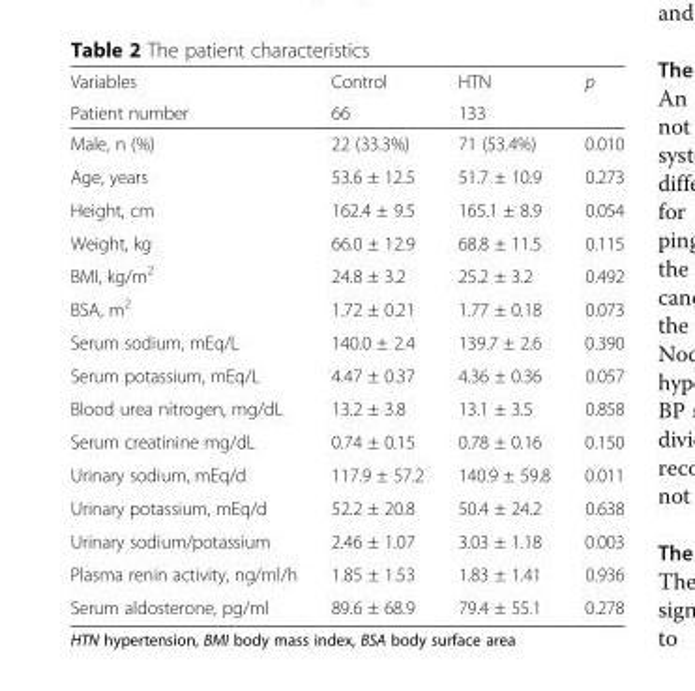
<table><thead><tr><td rowspan="2">Variables Patient number</td><td rowspan="2">Control 66</td><td rowspan="2">HTN 133</td><td rowspan="2">p</td></tr><tr></tr></thead><tbody><tr><td>Male, n (%)</td><td>22 (33.3%)</td><td>71 (53.4%)</td><td>0.010</td></tr><tr><td>Age, years</td><td>53.6 ± 12.5</td><td>51.7 ± 10.9</td><td>0.273</td></tr><tr><td>Height, cm</td><td>162.4 ± 9.5</td><td>165.1 ± 8.9</td><td>0.054</td></tr><tr><td>Weight, kg</td><td>66.0 ± 12.9</td><td>68.8 ± 11.5</td><td>0.115</td></tr><tr><td>BMI, kg/m<sup>2</sup></td><td>24.8 ± 3.2</td><td>25.2 ± 3.2</td><td>0.492</td></tr><tr><td>BSA, m<sup>2</sup></td><td>1.72 ± 0.21</td><td>1.77 ± 0.18</td><td>0.073</td></tr><tr><td>Serum sodium, mEq/L</td><td>140.0 ± 2.4</td><td>139.7 ± 2.6</td><td>0.390</td></tr><tr><td>Serum potassium, mEq/L</td><td>4.47 ± 0.37</td><td>4.36 ± 0.36</td><td>0.057</td></tr><tr><td>Blood urea nitrogen, mg/dL</td><td>13.2 ± 3.8</td><td>13.1 ± 3.5</td><td>0.858</td></tr><tr><td>Serum creatinine mg/dL</td><td>0.74 ± 0.15</td><td>0.78 ± 0.16</td><td>0.150</td></tr><tr><td>Urinary sodium, mEq/d</td><td>117.9 ± 57.2</td><td>140.9 ± 59.8</td><td>0.011</td></tr><tr><td>Urinary potassium, mEq/d</td><td>52.2 ± 20.8</td><td>50.4 ± 24.2</td><td>0.638</td></tr><tr><td>Urinary sodium/potassium</td><td>2.46 ± 1.07</td><td>3.03 ± 1.18</td><td>0.003</td></tr><tr><td>Plasma renin activity, ng/ml/h</td><td>1.85 ± 1.53</td><td>1.83 ± 1.41</td><td>0.936</td></tr><tr><td>Serum aldosterone, pg/ml</td><td>89.6 ± 68.9</td><td>79.4 ± 55.1</td><td>0.278</td></tr></tbody></table>